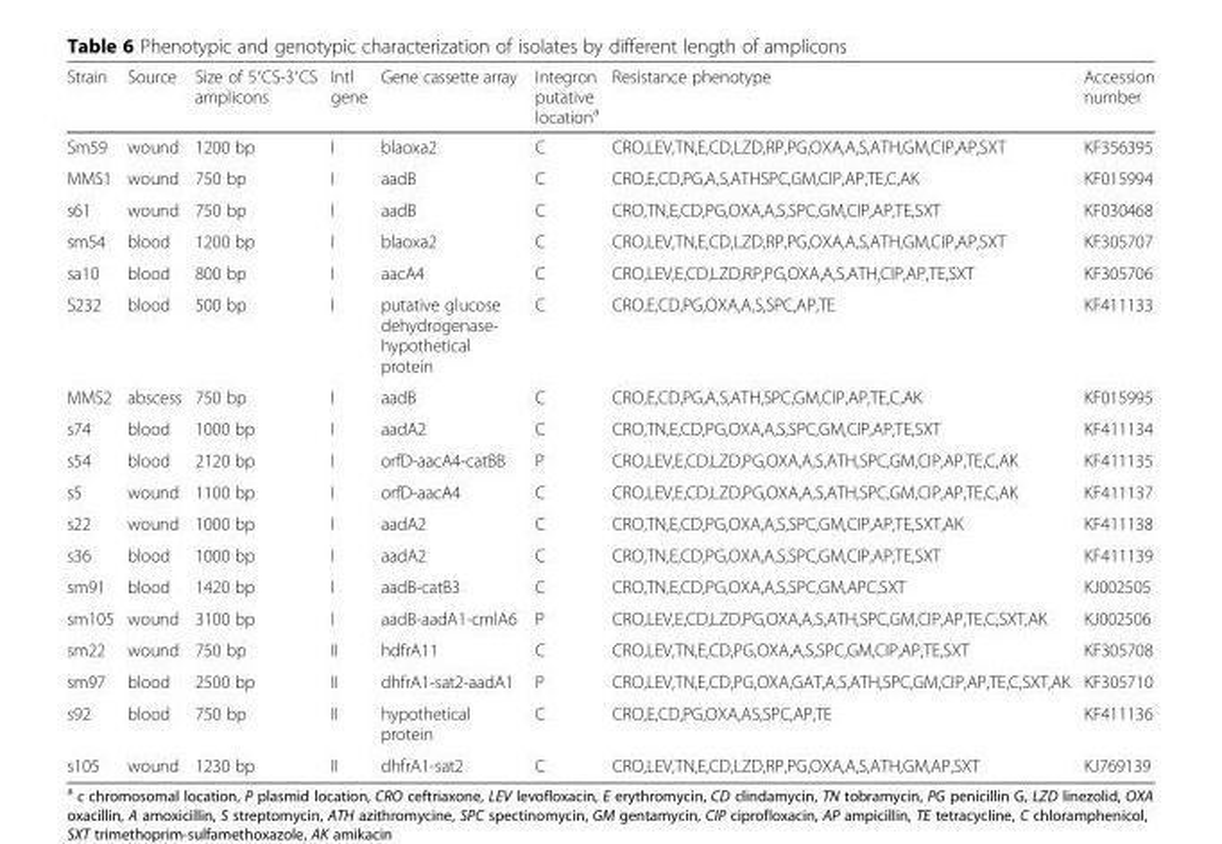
<table><thead><tr><td>Strain</td><td>Source</td><td>Size of 5′CS-3′CS amplicons</td><td>Intl gene</td><td>Gene cassette array</td><td>Integron putative location<sup>a</sup></td><td>Resistance phenotype</td><td>Accession number</td></tr></thead><tbody><tr><td>Sm59</td><td>wound</td><td>1200 bp</td><td>I</td><td>blaoxa2</td><td>C</td><td>CRO,LEV,TN,E,CD,LZD,RP,PG,OXA,A,S,ATH,GM,CIP,AP,SXT</td><td>KF356395</td></tr><tr><td>MMS1</td><td>wound</td><td>750 bp</td><td>I</td><td>aadB</td><td>C</td><td>CRO,E,CD,PG,A,S,ATHSPC,GM,CIP,AP,TE,C,AK</td><td>KF015994</td></tr><tr><td>s61</td><td>wound</td><td>750 bp</td><td>I</td><td>aadB</td><td>C</td><td>CRO,TN,E,CD,PG,OXA,A,S,SPC,GM,CIP,AP,TE,SXT</td><td>KF030468</td></tr><tr><td>sm54</td><td>blood</td><td>1200 bp</td><td>I</td><td>blaoxa2</td><td>C</td><td>CRO,LEV,TN,E,CD,LZD,RP,PG,OXA,A,S,ATH,GM,CIP,AP,SXT</td><td>KF305707</td></tr><tr><td>sa10</td><td>blood</td><td>800 bp</td><td>I</td><td>aacA4</td><td>C</td><td>CRO,LEV,E,CD,LZD,RP,PG,OXA,A,S,ATH,CIP,AP,TE,SXT</td><td>KF305706</td></tr><tr><td>S232</td><td>blood</td><td>500 bp</td><td>I</td><td>putative glucose dehydrogenase- hypothetical protein</td><td>C</td><td>CRO,E,CD,PG,OXA,A,S,SPC,AP,TE</td><td>KF411133</td></tr><tr><td>MMS2</td><td>abscess</td><td>750 bp</td><td>I</td><td>aadB</td><td>C</td><td>CRO,E,CD,PG,A,S,ATH,SPC,GM,CIP,AP,TE,C,AK</td><td>KF015995</td></tr><tr><td>s74</td><td>blood</td><td>1000 bp</td><td>I</td><td>aadA2</td><td>C</td><td>CRO,TN,E,CD,PG,OXA,A,S,SPC,GM,CIP,AP,TE,SXT</td><td>KF411134</td></tr><tr><td>s54</td><td>blood</td><td>2120 bp</td><td>I</td><td>orfD-aacA4-catBB</td><td>P</td><td>CRO,LEV,E,CD,LZD,PG,OXA,A,S,ATH,SPC,GM,CIP,AP,TE,C,AK</td><td>KF411135</td></tr><tr><td>s5</td><td>wound</td><td>1100 bp</td><td>I</td><td>orfD-aacA4</td><td>C</td><td>CRO,LEV,E,CD,LZD,PG,OXA,A,S,ATH,SPC,GM,CIP,AP,TE,C,AK</td><td>KF411137</td></tr><tr><td>s22</td><td>wound</td><td>1000 bp</td><td>I</td><td>aadA2</td><td>C</td><td>CRO,TN,E,CD,PG,OXA,A,S,SPC,GM,CIP,AP,TE,SXT,AK</td><td>KF411138</td></tr><tr><td>s36</td><td>blood</td><td>1000 bp</td><td>I</td><td>aadA2</td><td>C</td><td>CRO,TN,E,CD,PG,OXA,A,S,SPC,GM,CIP,AP,TE,SXT</td><td>KF411139</td></tr><tr><td>sm91</td><td>blood</td><td>1420 bp</td><td>I</td><td>aadB-catB3</td><td>C</td><td>CRO,TN,E,CD,PG,OXA,A,S,SPC,GM,APC,SXT</td><td>KJ002505</td></tr><tr><td>sm105</td><td>wound</td><td>3100 bp</td><td>I</td><td>aadB-aadA1-cmlA6</td><td>P</td><td>CRO,LEV,E,CD,LZD,PG,OXA,A,S,ATH,SPC,GM,CIP,AP,TE,C,SXT,AK</td><td>KJ002506</td></tr><tr><td>sm22</td><td>wound</td><td>750 bp</td><td>II</td><td>hdfrA11</td><td>C</td><td>CRO,LEV,TN,E,CD,PG,OXA,A,S,SPC,GM,CIP,AP,TE,SXT</td><td>KF305708</td></tr><tr><td>sm97</td><td>blood</td><td>2500 bp</td><td>II</td><td>dhfrA1-sat2-aadA1</td><td>P</td><td>CRO,LEV,TN,E,CD,PG,OXA,GAT,A,S,ATH,SPC,GM,CIP,AP,TE,C,SXT,AK</td><td>KF305710</td></tr><tr><td>s92</td><td>blood</td><td>750 bp</td><td>II</td><td>hypothetical protein</td><td>C</td><td>CRO,E,CD,PG,OXA,AS,SPC,AP,TE</td><td>KF411136</td></tr><tr><td>s105</td><td>wound</td><td>1230 bp</td><td>II</td><td>dhfrA1-sat2</td><td>C</td><td>CRO,LEV,TN,E,CD,LZD,RP,PG,OXA,A,S,ATH,GM,AP,SXT</td><td>KJ769139</td></tr></tbody></table>